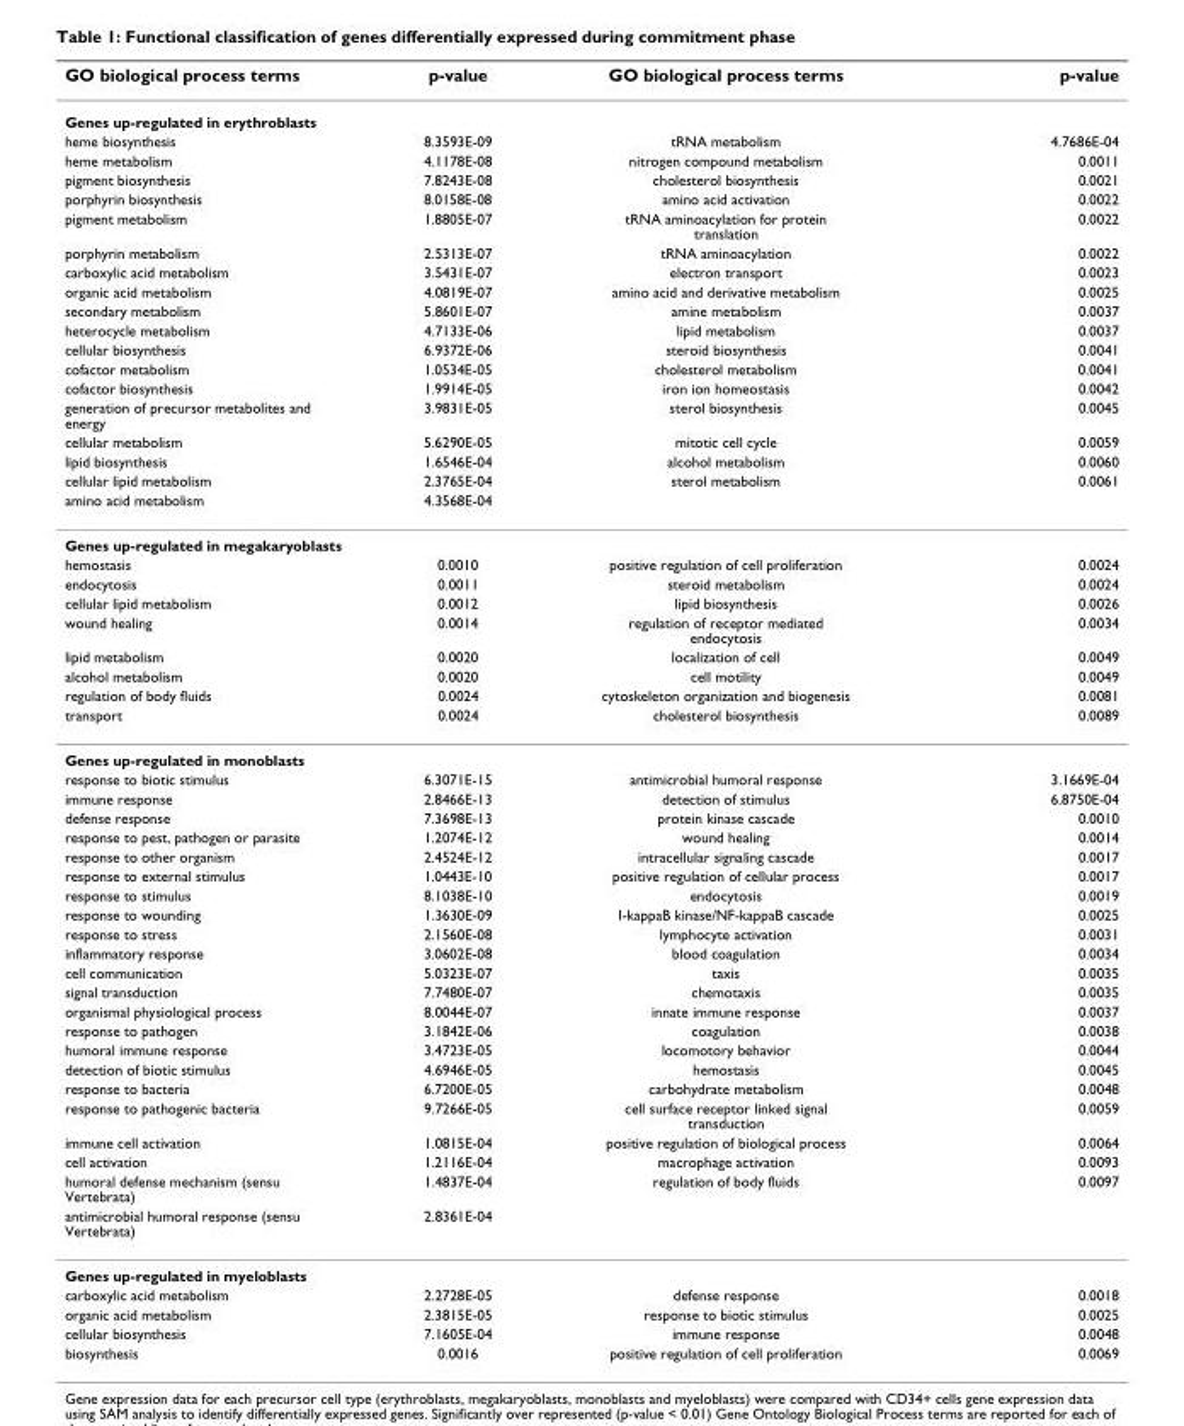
<table><thead><tr><td>GO biological process terms</td><td>p-value</td><td>GO biological process terms</td><td>p-value</td></tr></thead><tbody><tr><td colspan="4">Genes up-regulated in erythroblasts</td></tr><tr><td>heme biosynthesis</td><td>8.3593E-09</td><td>tRNA metabolism</td><td>4.7686E-04</td></tr><tr><td>heme metabolism</td><td>4.1178E-08</td><td>nitrogen compound metabolism</td><td>0.0011</td></tr><tr><td>pigment biosynthesis</td><td>7.8243E-08</td><td>cholesterol biosynthesis</td><td>0.0021</td></tr><tr><td>porphyrin biosynthesis</td><td>8.0158E-08</td><td>amino acid activation</td><td>0.0022</td></tr><tr><td>pigment metabolism</td><td>1.8805E-07</td><td>tRNA aminoacylation for protein translation</td><td>0.0022</td></tr><tr><td>porphyrin metabolism</td><td>2.5313E-07</td><td>tRNA aminoacylation</td><td>0.0022</td></tr><tr><td>carboxylic acid metabolism</td><td>3.5431E-07</td><td>electron transport</td><td>0.0023</td></tr><tr><td>organic acid metabolism</td><td>4.0819E-07</td><td>amino acid and derivative metabolism</td><td>0.0025</td></tr><tr><td>secondary metabolism</td><td>5.8601E-07</td><td>amine metabolism</td><td>0.0037</td></tr><tr><td>heterocycle metabolism</td><td>4.7133E-06</td><td>lipid metabolism</td><td>0.0037</td></tr><tr><td>cellular biosynthesis</td><td>6.9372E-06</td><td>steroid biosynthesis</td><td>0.0041</td></tr><tr><td>cofactor metabolism</td><td>1.0534E-05</td><td>cholesterol metabolism</td><td>0.0041</td></tr><tr><td>cofactor biosynthesis</td><td>1.9914E-05</td><td>iron ion homeostasis</td><td>0.0042</td></tr><tr><td>generation of precursor metabolites and energy</td><td>3.9831E-05</td><td>sterol biosynthesis</td><td>0.0045</td></tr><tr><td>cellular metabolism</td><td>5.6290E-05</td><td>mitotic cell cycle</td><td>0.0059</td></tr><tr><td>lipid biosynthesis</td><td>1.6546E-04</td><td>alcohol metabolism</td><td>0.0060</td></tr><tr><td>cellular lipid metabolism</td><td>2.3765E-04</td><td>sterol metabolism</td><td>0.0061</td></tr><tr><td>amino acid metabolism</td><td>4.3568E-04</td><td></td><td></td></tr><tr><td colspan="4">Genes up-regulated in megakaryoblasts</td></tr><tr><td>hemostasis</td><td>0.0010</td><td>positive regulation of cell proliferation</td><td>0.0024</td></tr><tr><td>endocytosis</td><td>0.0011</td><td>steroid metabolism</td><td>0.0024</td></tr><tr><td>cellular lipid metabolism</td><td>0.0012</td><td>lipid biosynthesis</td><td>0.0026</td></tr><tr><td>wound healing</td><td>0.0014</td><td>regulation of receptor mediated endocytosis</td><td>0.0034</td></tr><tr><td>lipid metabolism</td><td>0.0020</td><td>localization of cell</td><td>0.0049</td></tr><tr><td>alcohol metabolism</td><td>0.0020</td><td>cell motility</td><td>0.0049</td></tr><tr><td>regulation of body fluids</td><td>0.0024</td><td>cytoskeleton organization and biogenesis</td><td>0.0081</td></tr><tr><td>transport</td><td>0.0024</td><td>cholesterol biosynthesis</td><td>0.0089</td></tr><tr><td colspan="4">Genes up-regulated in monoblasts</td></tr><tr><td>response to biotic stimulus</td><td>6.3071E-15</td><td>antimicrobial humoral response</td><td>3.1669E-04</td></tr><tr><td>immune response</td><td>2.8466E-13</td><td>detection of stimulus</td><td>6.8750E-04</td></tr><tr><td>defense response</td><td>7.3698E-13</td><td>protein kinase cascade</td><td>0.0010</td></tr><tr><td>response to pest, pathogen or parasite</td><td>1.2074E-12</td><td>wound healing</td><td>0.0014</td></tr><tr><td>response to other organism</td><td>2.4524E-12</td><td>intracellular signaling cascade</td><td>0.0017</td></tr><tr><td>response to external stimulus</td><td>1.0443E-10</td><td>positive regulation of cellular process</td><td>0.0017</td></tr><tr><td>response to stimulus</td><td>8.1038E-10</td><td>endocytosis</td><td>0.0019</td></tr><tr><td>response to wounding</td><td>1.3630E-09</td><td>I-kappaB kinase/NF-kappaB cascade</td><td>0.0025</td></tr><tr><td>response to stress</td><td>2.1560E-08</td><td>lymphocyte activation</td><td>0.0031</td></tr><tr><td>inflammatory response</td><td>3.0602E-08</td><td>blood coagulation</td><td>0.0034</td></tr><tr><td>cell communication</td><td>5.0323E-07</td><td>taxis</td><td>0.0035</td></tr><tr><td>signal transduction</td><td>7.7480E-07</td><td>chemotaxis</td><td>0.0035</td></tr><tr><td>organismal physiological process</td><td>8.0044E-07</td><td>innate immune response</td><td>0.0037</td></tr><tr><td>response to pathogen</td><td>3.1842E-06</td><td>coagulation</td><td>0.0038</td></tr><tr><td>humoral immune response</td><td>3.4723E-05</td><td>locomotory behavior</td><td>0.0044</td></tr><tr><td>detection of biotic stimulus</td><td>4.6946E-05</td><td>hemostasis</td><td>0.0045</td></tr><tr><td>response to bacteria</td><td>6.7200E-05</td><td>carbohydrate metabolism</td><td>0.0048</td></tr><tr><td>response to pathogenic bacteria</td><td>9.7266E-05</td><td>cell surface receptor linked signal transduction</td><td>0.0059</td></tr><tr><td>immune cell activation</td><td>1.0815E-04</td><td>positive regulation of biological process</td><td>0.0064</td></tr><tr><td>cell activation</td><td>1.2116E-04</td><td>macrophage activation</td><td>0.0093</td></tr><tr><td>humoral defense mechanism (sensu Vertebrata)</td><td>1.4837E-04</td><td>regulation of body fluids</td><td>0.0097</td></tr><tr><td>antimicrobial humoral response (sensu Vertebrata)</td><td>2.8361E-04</td><td></td><td></td></tr><tr><td colspan="4">Genes up-regulated in myeloblasts</td></tr><tr><td>carboxylic acid metabolism</td><td>2.2728E-05</td><td>defense response</td><td>0.0018</td></tr><tr><td>organic acid metabolism</td><td>2.3815E-05</td><td>response to biotic stimulus</td><td>0.0025</td></tr><tr><td>cellular biosynthesis</td><td>7.1605E-04</td><td>immune response</td><td>0.0048</td></tr><tr><td>biosynthesis</td><td>0.0016</td><td>positive regulation of cell proliferation</td><td>0.0069</td></tr></tbody></table>